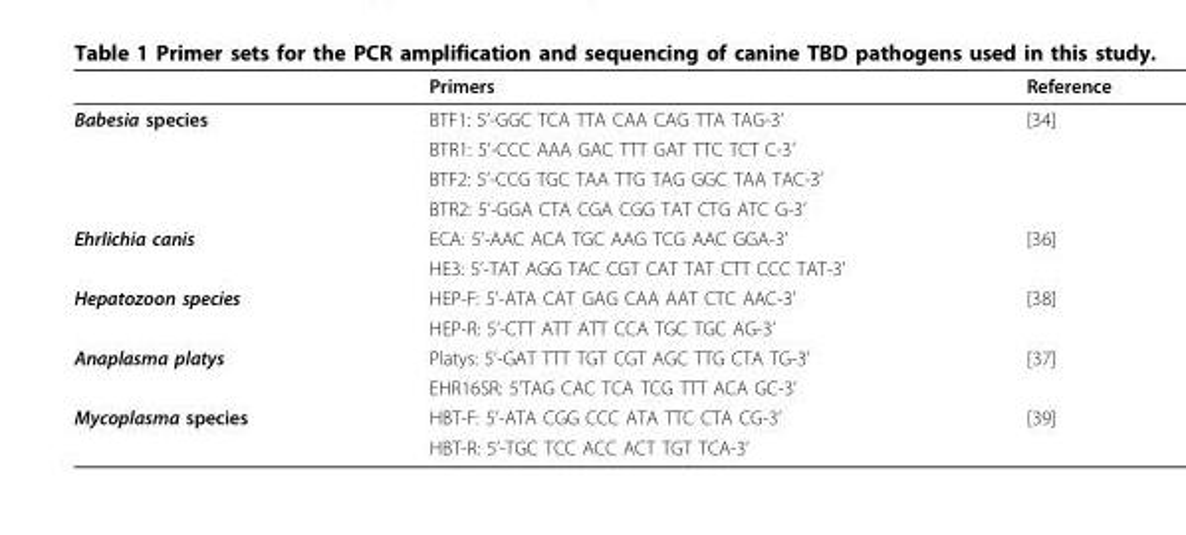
<table><thead><tr><td></td><td>Primers</td><td>Reference</td></tr></thead><tbody><tr><td rowspan="4">Babesia species</td><td>BTF1: 5’-GGC TCA TTA CAA CAG TTA TAG-3’</td><td>[34]</td></tr><tr><td>BTR1: 5’-CCC AAA GAC TTT GAT TTC TCT C-3’</td><td></td></tr><tr><td>BTF2: 5’-CCG TGC TAA TTG TAG GGC TAA TAC-3’</td><td></td></tr><tr><td>BTR2: 5’-GGA CTA CGA CGG TAT CTG ATC G-3’</td><td></td></tr><tr><td rowspan="2">Ehrlichia canis</td><td>ECA: 5’-AAC ACA TGC AAG TCG AAC GGA-3’</td><td>[36]</td></tr><tr><td>HE3: 5’-TAT AGG TAC CGT CAT TAT CTT CCC TAT-3’</td><td></td></tr><tr><td rowspan="2">Hepatozoon species</td><td>HEP-F: 5’-ATA CAT GAG CAA AAT CTC AAC-3’</td><td>[38]</td></tr><tr><td>HEP-R: 5’-CTT ATT ATT CCA TGC TGC AG-3’</td><td></td></tr><tr><td rowspan="2">Anaplasma platys</td><td>Platys: 5’-GAT TTT TGT CGT AGC TTG CTA TG-3’</td><td>[37]</td></tr><tr><td>EHR16SR: 5’TAG CAC TCA TCG TTT ACA GC-3’</td><td></td></tr><tr><td rowspan="2">Mycoplasma species</td><td>HBT-F: 5’-ATA CGG CCC ATA TTC CTA CG-3’</td><td>[39]</td></tr><tr><td>HBT-R: 5’-TGC TCC ACC ACT TGT TCA-3’</td><td></td></tr></tbody></table>